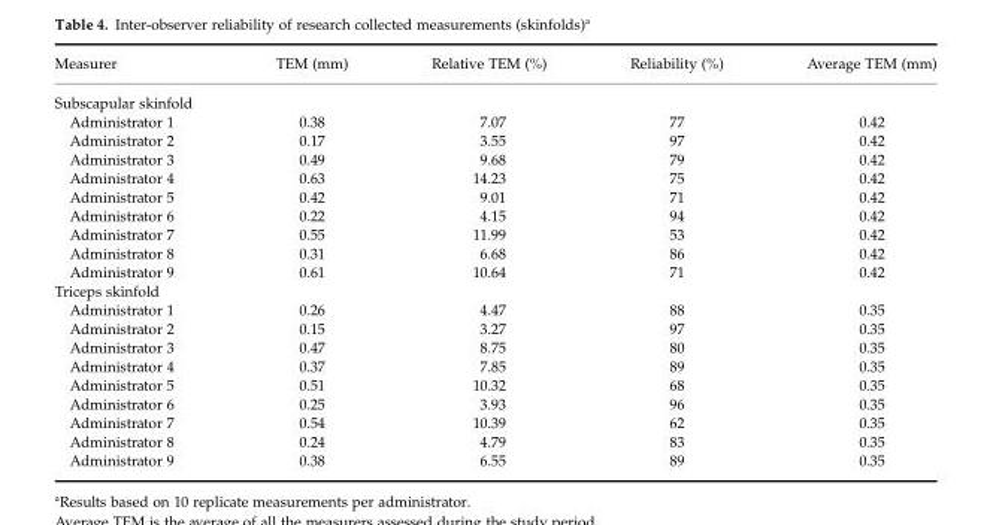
<table><thead><tr><td>Measurer</td><td>TEM (mm)</td><td>Relative TEM (%)</td><td>Reliability (%)</td><td>Average TEM (mm)</td></tr></thead><tbody><tr><td colspan="5">Subscapular skinfold</td></tr><tr><td>Administrator 1</td><td>0.38</td><td>7.07</td><td>77</td><td>0.42</td></tr><tr><td>Administrator 2</td><td>0.17</td><td>3.55</td><td>97</td><td>0.42</td></tr><tr><td>Administrator 3</td><td>0.49</td><td>9.68</td><td>79</td><td>0.42</td></tr><tr><td>Administrator 4</td><td>0.63</td><td>14.23</td><td>75</td><td>0.42</td></tr><tr><td>Administrator 5</td><td>0.42</td><td>9.01</td><td>71</td><td>0.42</td></tr><tr><td>Administrator 6</td><td>0.22</td><td>4.15</td><td>94</td><td>0.42</td></tr><tr><td>Administrator 7</td><td>0.55</td><td>11.99</td><td>53</td><td>0.42</td></tr><tr><td>Administrator 8</td><td>0.31</td><td>6.68</td><td>86</td><td>0.42</td></tr><tr><td>Administrator 9</td><td>0.61</td><td>10.64</td><td>71</td><td>0.42</td></tr><tr><td colspan="5">Triceps skinfold</td></tr><tr><td>Administrator 1</td><td>0.26</td><td>4.47</td><td>88</td><td>0.35</td></tr><tr><td>Administrator 2</td><td>0.15</td><td>3.27</td><td>97</td><td>0.35</td></tr><tr><td>Administrator 3</td><td>0.47</td><td>8.75</td><td>80</td><td>0.35</td></tr><tr><td>Administrator 4</td><td>0.37</td><td>7.85</td><td>89</td><td>0.35</td></tr><tr><td>Administrator 5</td><td>0.51</td><td>10.32</td><td>68</td><td>0.35</td></tr><tr><td>Administrator 6</td><td>0.25</td><td>3.93</td><td>96</td><td>0.35</td></tr><tr><td>Administrator 7</td><td>0.54</td><td>10.39</td><td>62</td><td>0.35</td></tr><tr><td>Administrator 8</td><td>0.24</td><td>4.79</td><td>83</td><td>0.35</td></tr><tr><td>Administrator 9</td><td>0.38</td><td>6.55</td><td>89</td><td>0.35</td></tr></tbody></table>